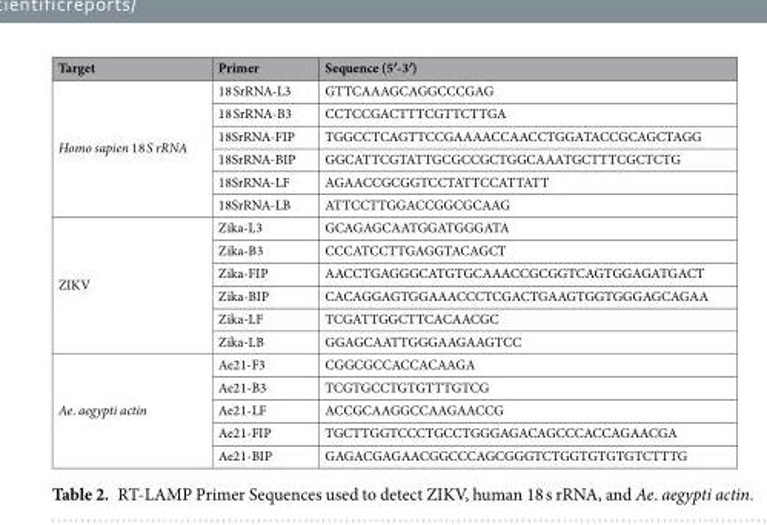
<table><thead><tr><td>Target</td><td>Primer</td><td>Sequence (5′-3′)</td></tr></thead><tbody><tr><td rowspan="6">Homo sapien 18 S rRNA</td><td>18 SrRNA-L3</td><td>GTTCAAAGCAGGCCCGAG</td></tr><tr><td>18 SrRNA-B3</td><td>CCTCCGACTTTCGTTCTTGA</td></tr><tr><td>18SrRNA-FIP</td><td>TGGCCTCAGTTCCGAAAACCAACCTGGATACCGCAGCTAGG</td></tr><tr><td>18SrRNA-BIP</td><td>GGCATTCGTATTGCGCCGCTGGCAAATGCTTTCGCTCTG</td></tr><tr><td>18SrRNA-LF</td><td>AGAACCGCGGTCCTATTCCATTATT</td></tr><tr><td>18SrRNA-LB</td><td>ATTCCTTGGACCGGCGCAAG</td></tr><tr><td rowspan="6">ZIKV</td><td>Zika-L3</td><td>GCAGAGCAATGGATGGGATA</td></tr><tr><td>Zika-B3</td><td>CCCATCCTTGAGGTACAGCT</td></tr><tr><td>Zika-FIP</td><td>AACCTGAGGGCATGTGCAAACCGCGGTCAGTGGAGATGACT</td></tr><tr><td>Zika-BIP</td><td>CACAGGAGTGGAAACCCTCGACTGAAGTGGTGGGAGCAGAA</td></tr><tr><td>Zika-LF</td><td>TCGATTGGCTTCACAACGC</td></tr><tr><td>Zika-LB</td><td>GGAGCAATTGGGAAGAAGTCC</td></tr><tr><td rowspan="5">Ae. aegypti actin</td><td>Ae21-F3</td><td>CGGCGCCACCACAAGA</td></tr><tr><td>Ae21-B3</td><td>TCGTGCCTGTGTTTGTCG</td></tr><tr><td>Ae21-LF</td><td>ACCGCAAGGCCAAGAACCG</td></tr><tr><td>Ae21-FIP</td><td>TGCTTGGTCCCTGCCTGGGAGACAGCCCACCAGAACGA</td></tr><tr><td>Ae21-BIP</td><td>GAGACGAGAACGGCCCAGCGGGTCTGGTGTGTGTCTTTG</td></tr></tbody></table>